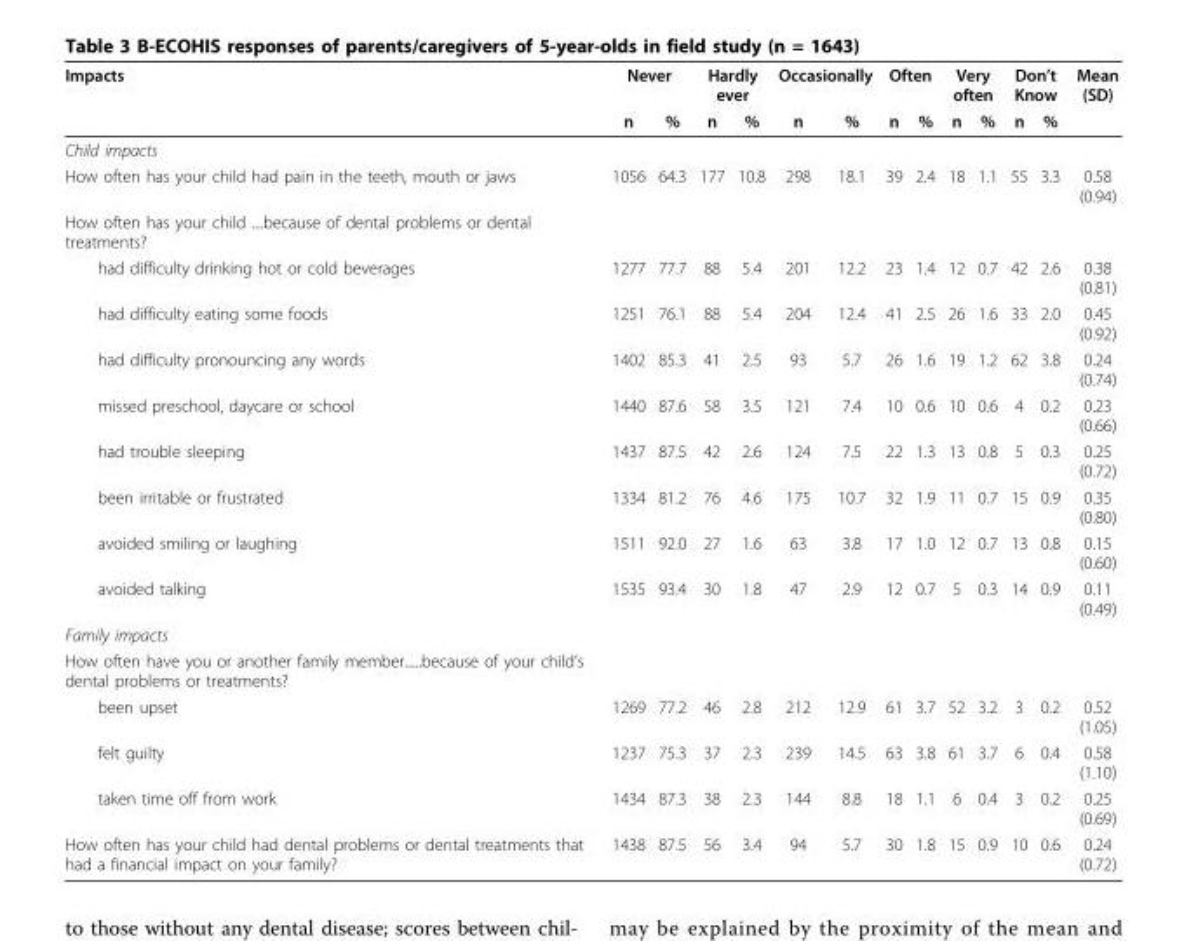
<table><thead><tr><td rowspan="2">Impacts</td><td colspan="2">Never</td><td colspan="2">Hardly ever</td><td colspan="2">Occasionally</td><td colspan="2">Often</td><td colspan="2">Very often</td><td colspan="2">Don’t Know</td><td rowspan="2">Mean (SD)</td></tr><tr><td>n</td><td>%</td><td>n</td><td>%</td><td>n</td><td>%</td><td>n</td><td>%</td><td>n</td><td>%</td><td>n</td><td>%</td></tr></thead><tbody><tr><td colspan="14">Child impacts</td></tr><tr><td>How often has your child had pain in the teeth, mouth or jaws</td><td>1056</td><td>64.3</td><td>177</td><td>10.8</td><td>298</td><td>18.1</td><td>39</td><td>2.4</td><td>18</td><td>1.1</td><td>55</td><td>3.3</td><td>0.58 (0.94)</td></tr><tr><td colspan="14">How often has your child ....because of dental problems or dental treatments?</td></tr><tr><td>had difficulty drinking hot or cold beverages</td><td>1277</td><td>77.7</td><td>88</td><td>5.4</td><td>201</td><td>12.2</td><td>23</td><td>1.4</td><td>12</td><td>0.7</td><td>42</td><td>2.6</td><td>0.38 (0.81)</td></tr><tr><td>had difficulty eating some foods</td><td>1251</td><td>76.1</td><td>88</td><td>5.4</td><td>204</td><td>12.4</td><td>41</td><td>2.5</td><td>26</td><td>1.6</td><td>33</td><td>2.0</td><td>0.45 (0.92)</td></tr><tr><td>had difficulty pronouncing any words</td><td>1402</td><td>85.3</td><td>41</td><td>2.5</td><td>93</td><td>5.7</td><td>26</td><td>1.6</td><td>19</td><td>1.2</td><td>62</td><td>3.8</td><td>0.24 (0.74)</td></tr><tr><td>missed preschool, daycare or school</td><td>1440</td><td>87.6</td><td>58</td><td>3.5</td><td>121</td><td>7.4</td><td>10</td><td>0.6</td><td>10</td><td>0.6</td><td>4</td><td>0.2</td><td>0.23 (0.66)</td></tr><tr><td>had trouble sleeping</td><td>1437</td><td>87.5</td><td>42</td><td>2.6</td><td>124</td><td>7.5</td><td>22</td><td>1.3</td><td>13</td><td>0.8</td><td>5</td><td>0.3</td><td>0.25 (0.72)</td></tr><tr><td>been irritable or frustrated</td><td>1334</td><td>81.2</td><td>76</td><td>4.6</td><td>175</td><td>10.7</td><td>32</td><td>1.9</td><td>11</td><td>0.7</td><td>15</td><td>0.9</td><td>0.35 (0.80)</td></tr><tr><td>avoided smiling or laughing</td><td>1511</td><td>92.0</td><td>27</td><td>1.6</td><td>63</td><td>3.8</td><td>17</td><td>1.0</td><td>12</td><td>0.7</td><td>13</td><td>0.8</td><td>0.15 (0.60)</td></tr><tr><td>avoided talking</td><td>1535</td><td>93.4</td><td>30</td><td>1.8</td><td>47</td><td>2.9</td><td>12</td><td>0.7</td><td>5</td><td>0.3</td><td>14</td><td>0.9</td><td>0.11 (0.49)</td></tr><tr><td colspan="14">Family impacts</td></tr><tr><td colspan="14">How often have you or another family member......because of your child’s dental problems or treatments?</td></tr><tr><td>been upset</td><td>1269</td><td>77.2</td><td>46</td><td>2.8</td><td>212</td><td>12.9</td><td>61</td><td>3.7</td><td>52</td><td>3.2</td><td>3</td><td>0.2</td><td>0.52 (1.05)</td></tr><tr><td>felt guilty</td><td>1237</td><td>75.3</td><td>37</td><td>2.3</td><td>239</td><td>14.5</td><td>63</td><td>3.8</td><td>61</td><td>3.7</td><td>6</td><td>0.4</td><td>0.58 (1.10)</td></tr><tr><td>taken time off from work</td><td>1434</td><td>87.3</td><td>38</td><td>2.3</td><td>144</td><td>8.8</td><td>18</td><td>1.1</td><td>6</td><td>0.4</td><td>3</td><td>0.2</td><td>0.25 (0.69)</td></tr><tr><td>How often has your child had dental problems or dental treatments that had a financial impact on your family?</td><td>1438</td><td>87.5</td><td>56</td><td>3.4</td><td>94</td><td>5.7</td><td>30</td><td>1.8</td><td>15</td><td>0.9</td><td>10</td><td>0.6</td><td>0.24 (0.72)</td></tr></tbody></table>